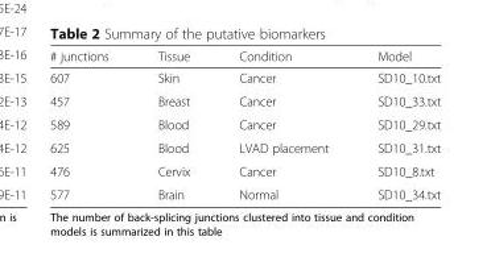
<table><thead><tr><td># junctions</td><td>Tissue</td><td>Condition</td><td>Model</td></tr></thead><tbody><tr><td>607</td><td>Skin</td><td>Cancer</td><td>SD10_10.txt</td></tr><tr><td>457</td><td>Breast</td><td>Cancer</td><td>SD10_33.txt</td></tr><tr><td>589</td><td>Blood</td><td>Cancer</td><td>SD10_29.txt</td></tr><tr><td>625</td><td>Blood</td><td>LVAD placement</td><td>SD10_31.txt</td></tr><tr><td>476</td><td>Cervix</td><td>Cancer</td><td>SD10_8.txt</td></tr><tr><td>577</td><td>Brain</td><td>Normal</td><td>SD10_34.txt</td></tr></tbody></table>